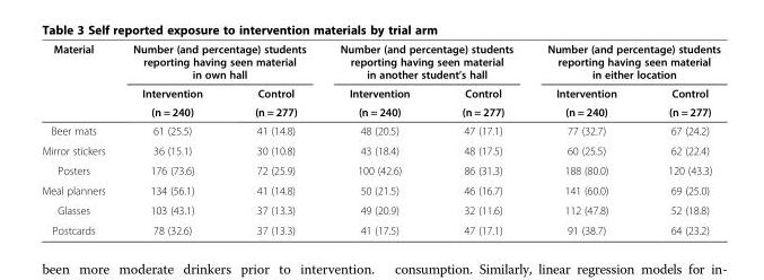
<table><thead><tr><td rowspan="3">Material</td><td colspan="2">Number (and percentage) students reporting having seen material in own hall</td><td colspan="2">Number (and percentage) students reporting having seen material in another student’s hall</td><td colspan="2">Number (and percentage) students reporting having seen material in either location</td></tr><tr><td rowspan="2">Intervention (n = 240)</td><td rowspan="2">Control (n = 277)</td><td rowspan="2">Intervention (n = 240)</td><td rowspan="2">Control (n = 277)</td><td rowspan="2">Intervention (n = 240)</td><td rowspan="2">Control (n = 277)</td></tr><tr></tr></thead><tbody><tr><td>Beer mats</td><td>61 (25.5)</td><td>41 (14.8)</td><td>48 (20.5)</td><td>47 (17.1)</td><td>77 (32.7)</td><td>67 (24.2)</td></tr><tr><td>Mirror stickers</td><td>36 (15.1)</td><td>30 (10.8)</td><td>43 (18.4)</td><td>48 (17.5)</td><td>60 (25.5)</td><td>62 (22.4)</td></tr><tr><td>Posters</td><td>176 (73.6)</td><td>72 (25.9)</td><td>100 (42.6)</td><td>86 (31.3)</td><td>188 (80.0)</td><td>120 (43.3)</td></tr><tr><td>Meal planners</td><td>134 (56.1)</td><td>41 (14.8)</td><td>50 (21.5)</td><td>46 (16.7)</td><td>141 (60.0)</td><td>69 (25.0)</td></tr><tr><td>Glasses</td><td>103 (43.1)</td><td>37 (13.3)</td><td>49 (20.9)</td><td>32 (11.6)</td><td>112 (47.8)</td><td>52 (18.8)</td></tr><tr><td>Postcards</td><td>78 (32.6)</td><td>37 (13.3)</td><td>41 (17.5)</td><td>47 (17.1)</td><td>91 (38.7)</td><td>64 (23.2)</td></tr></tbody></table>